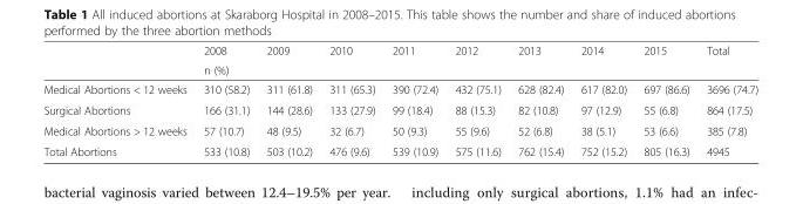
<table><thead><tr><td rowspan="2"></td><td>2008</td><td>2009</td><td>2010</td><td>2011</td><td>2012</td><td>2013</td><td>2014</td><td>2015</td><td>Total</td></tr><tr><td colspan="9">n (%)</td></tr></thead><tbody><tr><td>Medical Abortions &lt; 12 weeks</td><td>310 (58.2)</td><td>311 (61.8)</td><td>311 (65.3)</td><td>390 (72.4)</td><td>432 (75.1)</td><td>628 (82.4)</td><td>617 (82.0)</td><td>697 (86.6)</td><td>3696 (74.7)</td></tr><tr><td>Surgical Abortions</td><td>166 (31.1)</td><td>144 (28.6)</td><td>133 (27.9)</td><td>99 (18.4)</td><td>88 (15.3)</td><td>82 (10.8)</td><td>97 (12.9)</td><td>55 (6.8)</td><td>864 (17.5)</td></tr><tr><td>Medical Abortions &gt; 12 weeks</td><td>57 (10.7)</td><td>48 (9.5)</td><td>32 (6.7)</td><td>50 (9.3)</td><td>55 (9.6)</td><td>52 (6.8)</td><td>38 (5.1)</td><td>53 (6.6)</td><td>385 (7.8)</td></tr><tr><td>Total Abortions</td><td>533 (10.8)</td><td>503 (10.2)</td><td>476 (9.6)</td><td>539 (10.9)</td><td>575 (11.6)</td><td>762 (15.4)</td><td>752 (15.2)</td><td>805 (16.3)</td><td>4945</td></tr></tbody></table>